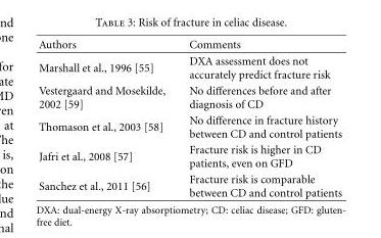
<table><thead><tr><td>Authors</td><td>Comments</td></tr></thead><tbody><tr><td>Marshall et al., 1996 [55]</td><td>DXA assessment does not accurately predict fracture risk</td></tr><tr><td>Vestergaard and Mosekilde, 2002 [59]</td><td>No differences before and after diagnosis of CD</td></tr><tr><td>Thomason et al., 2003 [58]</td><td>No difference in fracture history between CD and control patients</td></tr><tr><td>Jafri et al., 2008 [57]</td><td>Fracture risk is higher in CD patients, even on GFD</td></tr><tr><td>Sanchez et al., 2011 [56]</td><td>Fracture risk is comparable between CD and control patients</td></tr></tbody></table>